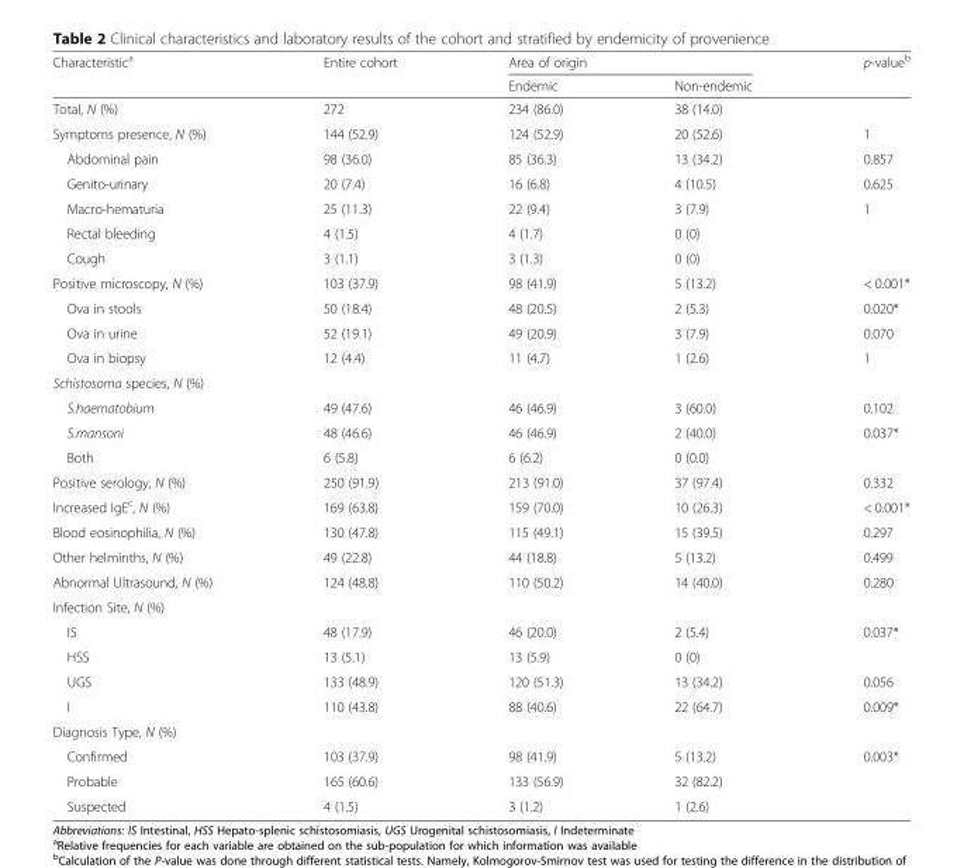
<table><thead><tr><td rowspan="2">Characteristic<sup>a</sup></td><td rowspan="2">Entire cohort</td><td colspan="2">Area of origin</td><td rowspan="2">p-value<sup>b</sup></td></tr><tr><td>Endemic</td><td>Non-endemic</td></tr></thead><tbody><tr><td>Total, N (%)</td><td>272</td><td>234 (86.0)</td><td>38 (14.0)</td><td></td></tr><tr><td>Symptoms presence, N (%)</td><td>144 (52.9)</td><td>124 (52.9)</td><td>20 (52.6)</td><td>1</td></tr><tr><td>Abdominal pain</td><td>98 (36.0)</td><td>85 (36.3)</td><td>13 (34.2)</td><td>0.857</td></tr><tr><td>Genito-urinary</td><td>20 (7.4)</td><td>16 (6.8)</td><td>4 (10.5)</td><td>0.625</td></tr><tr><td>Macro-hematuria</td><td>25 (11.3)</td><td>22 (9.4)</td><td>3 (7.9)</td><td>1</td></tr><tr><td>Rectal bleeding</td><td>4 (1.5)</td><td>4 (1.7)</td><td>0 (0)</td><td></td></tr><tr><td>Cough</td><td>3 (1.1)</td><td>3 (1.3)</td><td>0 (0)</td><td></td></tr><tr><td>Positive microscopy, N (%)</td><td>103 (37.9)</td><td>98 (41.9)</td><td>5 (13.2)</td><td>&lt; 0.001*</td></tr><tr><td>Ova in stools</td><td>50 (18.4)</td><td>48 (20.5)</td><td>2 (5.3)</td><td>0.020*</td></tr><tr><td>Ova in urine</td><td>52 (19.1)</td><td>49 (20.9)</td><td>3 (7.9)</td><td>0.070</td></tr><tr><td>Ova in biopsy</td><td>12 (4.4)</td><td>11 (4.7)</td><td>1 (2.6)</td><td>1</td></tr><tr><td colspan="5">Schistosoma species, N (%)</td></tr><tr><td>S.haematobium</td><td>49 (47.6)</td><td>46 (46.9)</td><td>3 (60.0)</td><td>0.102</td></tr><tr><td>S.mansoni</td><td>48 (46.6)</td><td>46 (46.9)</td><td>2 (40.0)</td><td>0.037*</td></tr><tr><td>Both</td><td>6 (5.8)</td><td>6 (6.2)</td><td>0 (0.0)</td><td></td></tr><tr><td>Positive serology, N (%)</td><td>250 (91.9)</td><td>213 (91.0)</td><td>37 (97.4)</td><td>0.332</td></tr><tr><td>Increased IgE<sup>c</sup>, N (%)</td><td>169 (63.8)</td><td>159 (70.0)</td><td>10 (26.3)</td><td>&lt; 0.001*</td></tr><tr><td>Blood eosinophilia, N (%)</td><td>130 (47.8)</td><td>115 (49.1)</td><td>15 (39.5)</td><td>0.297</td></tr><tr><td>Other helminths, N (%)</td><td>49 (22.8)</td><td>44 (18.8)</td><td>5 (13.2)</td><td>0.499</td></tr><tr><td>Abnormal Ultrasound, N (%)</td><td>124 (48.8)</td><td>110 (50.2)</td><td>14 (40.0)</td><td>0.280</td></tr><tr><td colspan="5">Infection Site, N (%)</td></tr><tr><td>IS</td><td>48 (17.9)</td><td>46 (20.0)</td><td>2 (5.4)</td><td>0.037*</td></tr><tr><td>HSS</td><td>13 (5.1)</td><td>13 (5.9)</td><td>0 (0)</td><td></td></tr><tr><td>UGS</td><td>133 (48.9)</td><td>120 (51.3)</td><td>13 (34.2)</td><td>0.056</td></tr><tr><td>I</td><td>110 (43.8)</td><td>88 (40.6)</td><td>22 (64.7)</td><td>0.009*</td></tr><tr><td colspan="5">Diagnosis Type, N (%)</td></tr><tr><td>Confirmed</td><td>103 (37.9)</td><td>98 (41.9)</td><td>5 (13.2)</td><td rowspan="3">0.003*</td></tr><tr><td>Probable</td><td>165 (60.6)</td><td>133 (56.9)</td><td>32 (82.2)</td></tr><tr><td>Suspected</td><td>4 (1.5)</td><td>3 (1.2)</td><td>1 (2.6)</td></tr></tbody></table>